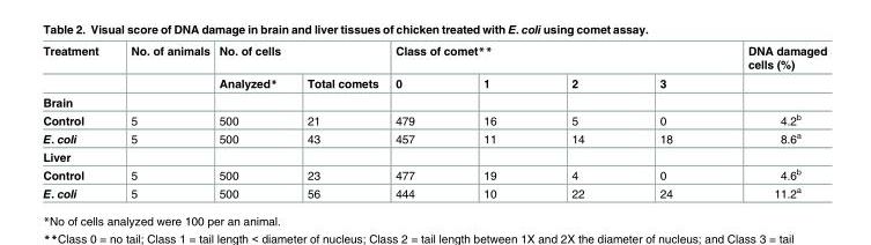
<table><thead><tr><td rowspan="2">Treatment</td><td rowspan="2">No. of animals</td><td colspan="2">No. of cells</td><td colspan="4">Class of comet**</td><td rowspan="2">DNA damaged cells (%)</td></tr><tr><td>Analyzed*</td><td>Total comets</td><td>0</td><td>1</td><td>2</td><td>3</td></tr></thead><tbody><tr><td colspan="9">Brain</td></tr><tr><td>Control</td><td>5</td><td>500</td><td>21</td><td>479</td><td>16</td><td>5</td><td>0</td><td>4.2<sup>b</sup></td></tr><tr><td>E. coli</td><td>5</td><td>500</td><td>43</td><td>457</td><td>11</td><td>14</td><td>18</td><td>8.6<sup>a</sup></td></tr><tr><td colspan="9">Liver</td></tr><tr><td>Control</td><td>5</td><td>500</td><td>23</td><td>477</td><td>19</td><td>4</td><td>0</td><td>4.6<sup>b</sup></td></tr><tr><td>E. coli</td><td>5</td><td>500</td><td>56</td><td>444</td><td>10</td><td>22</td><td>24</td><td>11.2<sup>a</sup></td></tr></tbody></table>